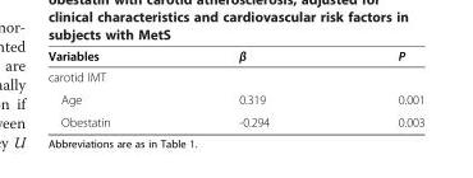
<table><thead><tr><td>Variables</td><td>β</td><td>P</td></tr></thead><tbody><tr><td colspan="3">carotid IMT</td></tr><tr><td>Age</td><td>0.319</td><td>0.001</td></tr><tr><td>Obestatin</td><td>-0.294</td><td>0.003</td></tr></tbody></table>